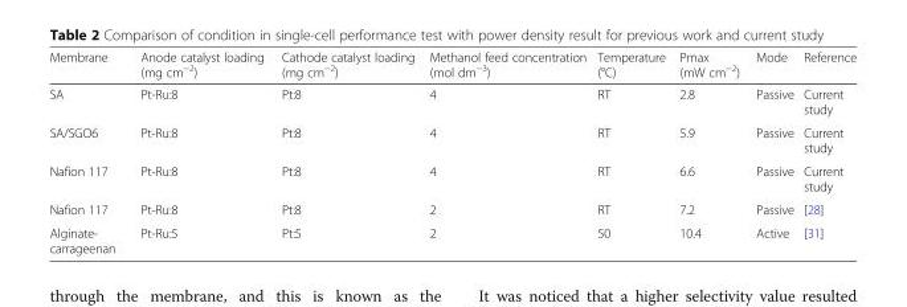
<table><thead><tr><td>Membrane</td><td>Anode catalyst loading (mg cm<sup>−2</sup>)</td><td>Cathode catalyst loading (mg cm<sup>−2</sup>)</td><td>Methanol feed concentration (mol dm<sup>−3</sup>)</td><td>Temperature (°C)</td><td>Pmax (mW cm<sup>−2</sup>)</td><td>Mode</td><td>Reference</td></tr></thead><tbody><tr><td>SA</td><td>Pt-Ru:8</td><td>Pt:8</td><td>4</td><td>RT</td><td>2.8</td><td>Passive</td><td>Current study</td></tr><tr><td>SA/SGO6</td><td>Pt-Ru:8</td><td>Pt:8</td><td>4</td><td>RT</td><td>5.9</td><td>Passive</td><td>Current study</td></tr><tr><td>Nafion 117</td><td>Pt-Ru:8</td><td>Pt:8</td><td>4</td><td>RT</td><td>6.6</td><td>Passive</td><td>Current study</td></tr><tr><td>Nafion 117</td><td>Pt-Ru:8</td><td>Pt:8</td><td>2</td><td>RT</td><td>7.2</td><td>Passive</td><td>[28]</td></tr><tr><td>Alginate- carrageenan</td><td>Pt-Ru:5</td><td>Pt:5</td><td>2</td><td>50</td><td>10.4</td><td>Active</td><td>[31]</td></tr></tbody></table>